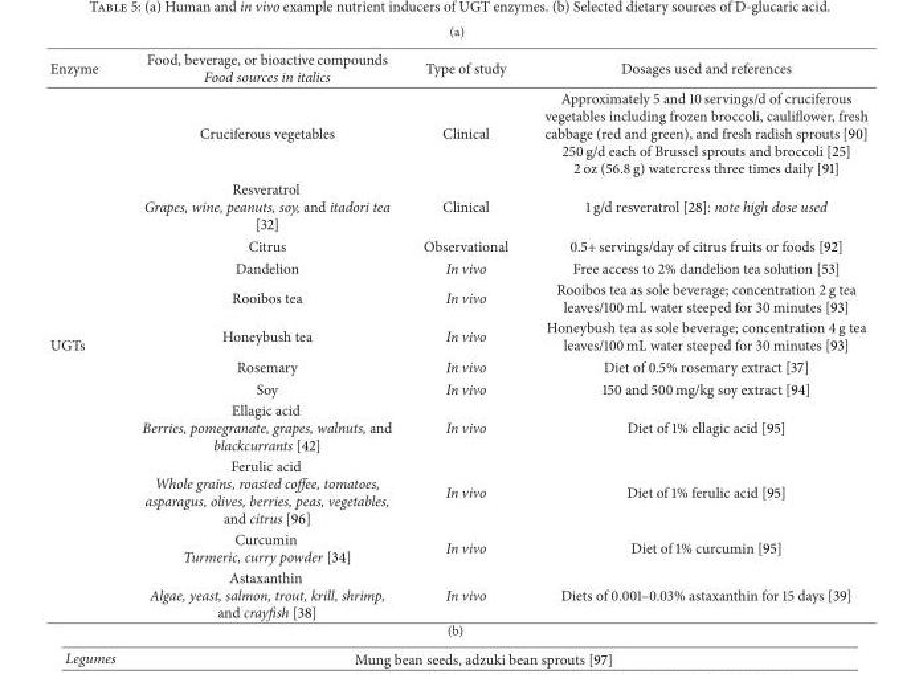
<table><thead><tr><td>Enzyme</td><td>Food, beverage, or bioactive compounds Food sources in italics</td><td>Type of study</td><td>Dosages used and references</td></tr></thead><tbody><tr><td></td><td>Cruciferous vegetables</td><td>Clinical</td><td>Approximately 5 and 10 servings/d of cruciferous vegetables including frozen broccoli, cauliflower, fresh cabbage (red and green), and fresh radish sprouts [90] 250 g/d each of Brussel sprouts and broccoli [25] 2 oz (56.8 g) watercress three times daily [91]</td></tr><tr><td></td><td>Resveratrol Grapes, wine, peanuts, soy, and itadori tea [32]</td><td>Clinical</td><td>1 g/d resveratrol [28]: note high dose used</td></tr><tr><td></td><td>Citrus</td><td>Observational</td><td>0.5+ servings/day of citrus fruits or foods [92]</td></tr><tr><td></td><td>Dandelion</td><td>In vivo</td><td>Free access to 2% dandelion tea solution [53]</td></tr><tr><td></td><td>Rooibos tea</td><td>In vivo</td><td>Rooibos tea as sole beverage; concentration 2 g tea leaves/100 mL water steeped for 30 minutes [93]</td></tr><tr><td rowspan="7">UGTs</td><td>Honeybush tea</td><td>In vivo</td><td>Honeybush tea as sole beverage; concentration 4 g tea leaves/100 mL water steeped for 30 minutes [93]</td></tr><tr><td>Rosemary</td><td>In vivo</td><td>Diet of 0.5% rosemary extract [37]</td></tr><tr><td>Soy</td><td>In vivo</td><td>150 and 500 mg/kg soy extract [94]</td></tr><tr><td>Ellagic acid Berries, pomegranate, grapes, walnuts, and blackcurrants [42]</td><td>In vivo</td><td>Diet of 1% ellagic acid [95]</td></tr><tr><td>Ferulic acid Whole grains, roasted coffee, tomatoes, asparagus, olives, berries, peas, vegetables, and citrus [96]</td><td>In vivo</td><td>Diet of 1% ferulic acid [95]</td></tr><tr><td>Curcumin Turmeric, curry powder [34]</td><td>In vivo</td><td>Diet of 1% curcumin [95]</td></tr><tr><td>Astaxanthin Algae, yeast, salmon, trout, krill, shrimp, and crayfish [38]</td><td>In vivo</td><td>Diets of 0.001–0.03% astaxanthin for 15 days [39]</td></tr></tbody></table>